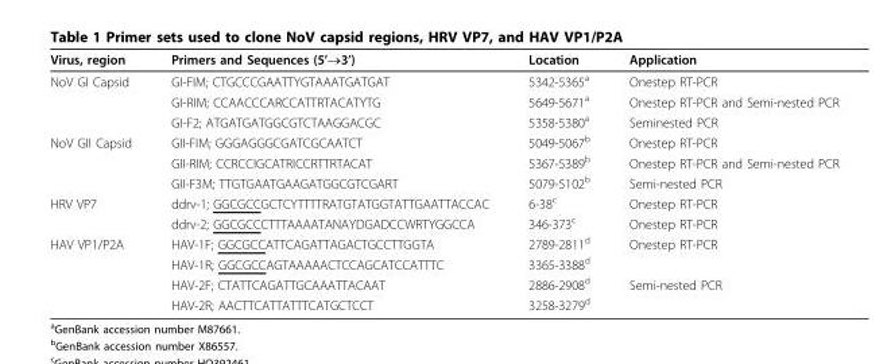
<table><thead><tr><td>Virus, region</td><td>Primers and Sequences (5’→3’)</td><td>Location</td><td>Application</td></tr></thead><tbody><tr><td rowspan="3">NoV GI Capsid</td><td>GI-FIM; CTGCCCGAATTYGTAAATGATGAT</td><td>5342-5365<sup>a</sup></td><td>Onestep RT-PCR</td></tr><tr><td>GI-RIM; CCAACCCARCCATTRTACATYTG</td><td>5649-5671<sup>a</sup></td><td>Onestep RT-PCR and Semi-nested PCR</td></tr><tr><td>GI-F2; ATGATGATGGCGTCTAAGGACGC</td><td>5358-5380<sup>a</sup></td><td>Seminested PCR</td></tr><tr><td rowspan="3">NoV GII Capsid</td><td>GII-FIM; GGGAGGGCGATCGCAATCT</td><td>5049-5067<sup>b</sup></td><td>Onestep RT-PCR</td></tr><tr><td>GII-RIM; CCRCCIGCATRICCRTTRTACAT</td><td>5367-5389<sup>b</sup></td><td>Onestep RT-PCR and Semi-nested PCR</td></tr><tr><td>GII-F3M; TTGTGAATGAAGATGGCGTCGART</td><td>5079-5102<sup>b</sup></td><td>Semi-nested PCR</td></tr><tr><td rowspan="2">HRV VP7</td><td>ddrv-1; GGCGCCGCTCYTTTTRATGTATGGTATTGAATTACCAC</td><td>6-38<sup>c</sup></td><td>Onestep RT-PCR</td></tr><tr><td>ddrv-2; GGCGCCCTTTAAAATANAYDGADCCWRTYGGCCA</td><td>346-373<sup>c</sup></td><td>Onestep RT-PCR</td></tr><tr><td rowspan="4">HAV VP1/P2A</td><td>HAV-1F; GGCGCCATTCAGATTAGACTGCCTTGGTA</td><td>2789-2811<sup>d</sup></td><td>Onestep RT-PCR</td></tr><tr><td>HAV-1R; GGCGCCAGTAAAAACTCCAGCATCCATTTC</td><td>3365-3388<sup>d</sup></td><td></td></tr><tr><td>HAV-2F; CTATTCAGATTGCAAATTACAAT</td><td>2886-2908<sup>d</sup></td><td>Semi-nested PCR</td></tr><tr><td>HAV-2R; AACTTCATTATTTCATGCTCCT</td><td>3258-3279<sup>d</sup></td><td></td></tr></tbody></table>